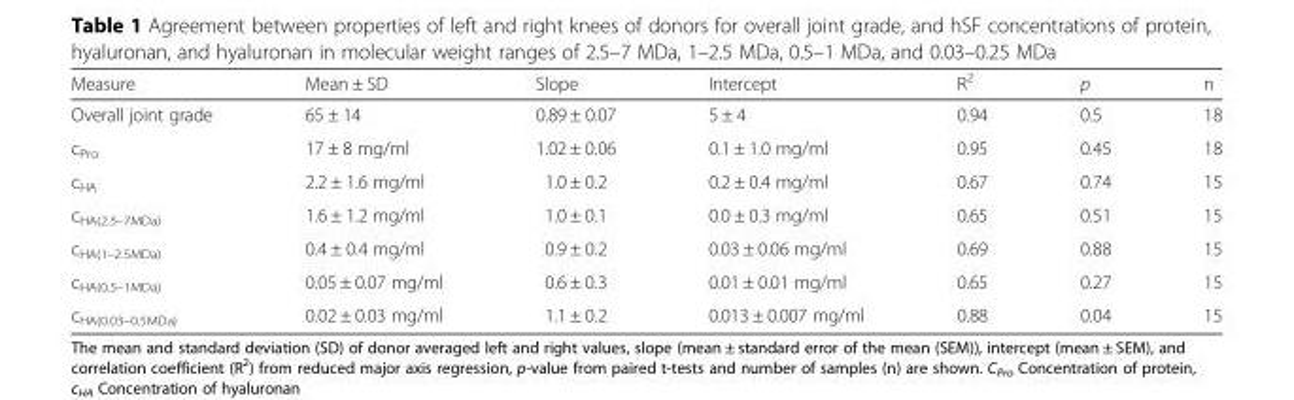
<table><thead><tr><td>Measure</td><td>Mean ± SD</td><td>Slope</td><td>Intercept</td><td>R<sup>2</sup></td><td>p</td><td>n</td></tr></thead><tbody><tr><td>Overall joint grade</td><td>65 ± 14</td><td>0.89 ± 0.07</td><td>5 ± 4</td><td>0.94</td><td>0.5</td><td>18</td></tr><tr><td>c<sub>Pro</sub></td><td>17 ± 8 mg/ml</td><td>1.02 ± 0.06</td><td>0.1 ± 1.0 mg/ml</td><td>0.95</td><td>0.45</td><td>18</td></tr><tr><td>c<sub>HA</sub></td><td>2.2 ± 1.6 mg/ml</td><td>1.0 ± 0.2</td><td>0.2 ± 0.4 mg/ml</td><td>0.67</td><td>0.74</td><td>15</td></tr><tr><td>c<sub>HA(2.5–7MDa)</sub></td><td>1.6 ± 1.2 mg/ml</td><td>1.0 ± 0.1</td><td>0.0 ± 0.3 mg/ml</td><td>0.65</td><td>0.51</td><td>15</td></tr><tr><td>c<sub>HA(1–2.5MDa)</sub></td><td>0.4 ± 0.4 mg/ml</td><td>0.9 ± 0.2</td><td>0.03 ± 0.06 mg/ml</td><td>0.69</td><td>0.88</td><td>15</td></tr><tr><td>c<sub>HA(0.5–1MDa)</sub></td><td>0.05 ± 0.07 mg/ml</td><td>0.6 ± 0.3</td><td>0.01 ± 0.01 mg/ml</td><td>0.65</td><td>0.27</td><td>15</td></tr><tr><td>c<sub>HA(0.03–0.5MDa)</sub></td><td>0.02 ± 0.03 mg/ml</td><td>1.1 ± 0.2</td><td>0.013 ± 0.007 mg/ml</td><td>0.88</td><td>0.04</td><td>15</td></tr></tbody></table>